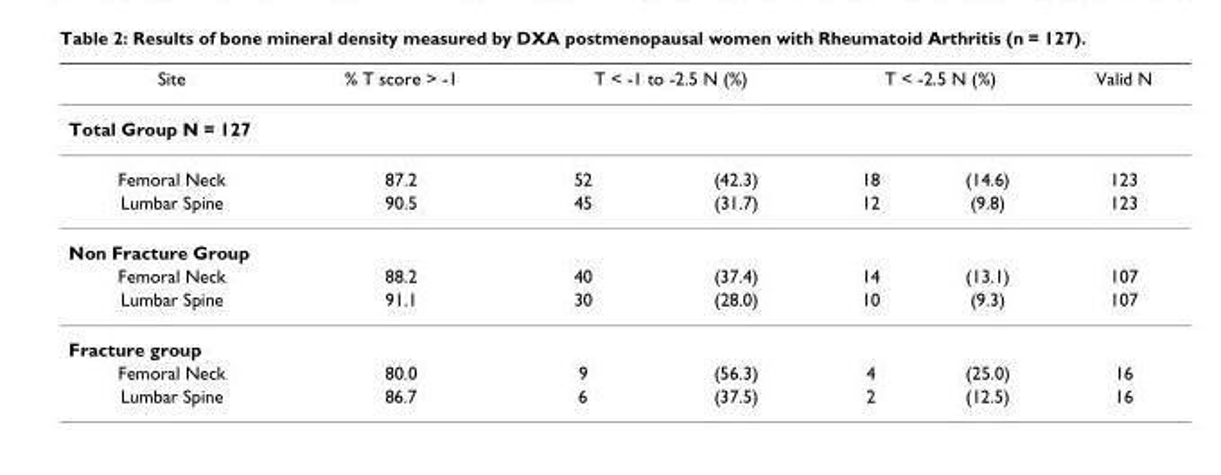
<table><thead><tr><td>Site</td><td>% T score &gt; -1</td><td colspan="2">T &lt; -1 to -2.5 N (%)</td><td colspan="2">T &lt; -2.5 N (%)</td><td>Valid N</td></tr><tr><td colspan="7">Total Group N = 127</td></tr><tr><td>Femoral Neck</td><td>87.2</td><td>52</td><td>(42.3)</td><td>18</td><td>(14.6)</td><td>123</td></tr></thead><tbody><tr><td>Lumbar Spine</td><td>90.5</td><td>45</td><td>(31.7)</td><td>12</td><td>(9.8)</td><td>123</td></tr><tr><td colspan="7">Non Fracture Group</td></tr><tr><td>Femoral Neck</td><td>88.2</td><td>40</td><td>(37.4)</td><td>14</td><td>(13.1)</td><td>107</td></tr><tr><td>Lumbar Spine</td><td>91.1</td><td>30</td><td>(28.0)</td><td>10</td><td>(9.3)</td><td>107</td></tr><tr><td colspan="7">Fracture group</td></tr><tr><td>Femoral Neck</td><td>80.0</td><td>9</td><td>(56.3)</td><td>4</td><td>(25.0)</td><td>16</td></tr><tr><td>Lumbar Spine</td><td>86.7</td><td>6</td><td>(37.5)</td><td>2</td><td>(12.5)</td><td>16</td></tr></tbody></table>